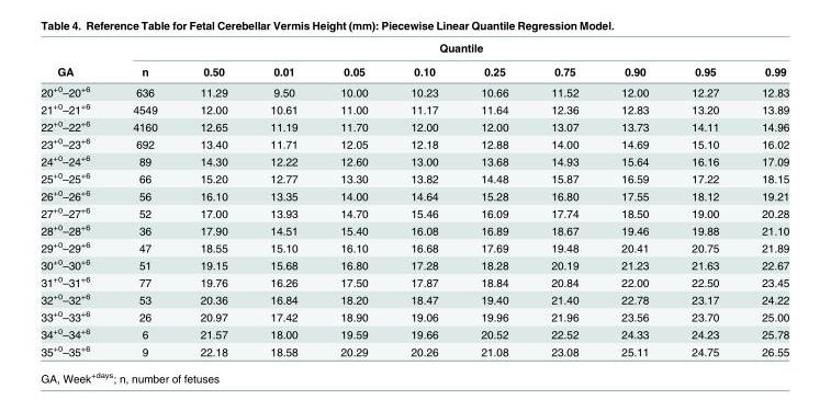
<table><thead><tr><td rowspan="2">GA</td><td colspan="10">Quantile</td></tr><tr><td>n</td><td>0.50</td><td>0.01</td><td>0.05</td><td>0.10</td><td>0.25</td><td>0.75</td><td>0.90</td><td>0.95</td><td>0.99</td></tr></thead><tbody><tr><td>20<sup>+0</sup>–20<sup>+6</sup></td><td>636</td><td>11.29</td><td>9.50</td><td>10.00</td><td>10.23</td><td>10.66</td><td>11.52</td><td>12.00</td><td>12.27</td><td>12.83</td></tr><tr><td>21<sup>+0</sup>–21<sup>+6</sup></td><td>4549</td><td>12.00</td><td>10.61</td><td>11.00</td><td>11.17</td><td>11.64</td><td>12.36</td><td>12.83</td><td>13.20</td><td>13.89</td></tr><tr><td>22<sup>+0</sup>–22<sup>+6</sup></td><td>4160</td><td>12.65</td><td>11.19</td><td>11.70</td><td>12.00</td><td>12.00</td><td>13.07</td><td>13.73</td><td>14.11</td><td>14.96</td></tr><tr><td>23<sup>+0</sup>–23<sup>+6</sup></td><td>692</td><td>13.40</td><td>11.71</td><td>12.05</td><td>12.18</td><td>12.88</td><td>14.00</td><td>14.69</td><td>15.10</td><td>16.02</td></tr><tr><td>24<sup>+0</sup>–24<sup>+6</sup></td><td>89</td><td>14.30</td><td>12.22</td><td>12.60</td><td>13.00</td><td>13.68</td><td>14.93</td><td>15.64</td><td>16.16</td><td>17.09</td></tr><tr><td>25<sup>+0</sup>–25<sup>+6</sup></td><td>66</td><td>15.20</td><td>12.77</td><td>13.30</td><td>13.82</td><td>14.48</td><td>15.87</td><td>16.59</td><td>17.22</td><td>18.15</td></tr><tr><td>26<sup>+0</sup>–26<sup>+6</sup></td><td>56</td><td>16.10</td><td>13.35</td><td>14.00</td><td>14.64</td><td>15.28</td><td>16.80</td><td>17.55</td><td>18.12</td><td>19.21</td></tr><tr><td>27<sup>+0</sup>–27<sup>+6</sup></td><td>52</td><td>17.00</td><td>13.93</td><td>14.70</td><td>15.46</td><td>16.09</td><td>17.74</td><td>18.50</td><td>19.00</td><td>20.28</td></tr><tr><td>28<sup>+0</sup>–28<sup>+6</sup></td><td>36</td><td>17.90</td><td>14.51</td><td>15.40</td><td>16.08</td><td>16.89</td><td>18.67</td><td>19.46</td><td>19.88</td><td>21.10</td></tr><tr><td>29<sup>+0</sup>–29<sup>+6</sup></td><td>47</td><td>18.55</td><td>15.10</td><td>16.10</td><td>16.68</td><td>17.69</td><td>19.48</td><td>20.41</td><td>20.75</td><td>21.89</td></tr><tr><td>30<sup>+0</sup>–30<sup>+6</sup></td><td>51</td><td>19.15</td><td>15.68</td><td>16.80</td><td>17.28</td><td>18.28</td><td>20.19</td><td>21.23</td><td>21.63</td><td>22.67</td></tr><tr><td>31<sup>+0</sup>–31<sup>+6</sup></td><td>77</td><td>19.76</td><td>16.26</td><td>17.50</td><td>17.87</td><td>18.84</td><td>20.84</td><td>22.00</td><td>22.50</td><td>23.45</td></tr><tr><td>32<sup>+0</sup>–32<sup>+6</sup></td><td>53</td><td>20.36</td><td>16.84</td><td>18.20</td><td>18.47</td><td>19.40</td><td>21.40</td><td>22.78</td><td>23.17</td><td>24.22</td></tr><tr><td>33<sup>+0</sup>–33<sup>+6</sup></td><td>26</td><td>20.97</td><td>17.42</td><td>18.90</td><td>19.06</td><td>19.96</td><td>21.96</td><td>23.56</td><td>23.70</td><td>25.00</td></tr><tr><td>34<sup>+0</sup>–34<sup>+6</sup></td><td>6</td><td>21.57</td><td>18.00</td><td>19.59</td><td>19.66</td><td>20.52</td><td>22.52</td><td>24.33</td><td>24.23</td><td>25.78</td></tr><tr><td>35<sup>+0</sup>–35<sup>+6</sup></td><td>9</td><td>22.18</td><td>18.58</td><td>20.29</td><td>20.26</td><td>21.08</td><td>23.08</td><td>25.11</td><td>24.75</td><td>26.55</td></tr></tbody></table>